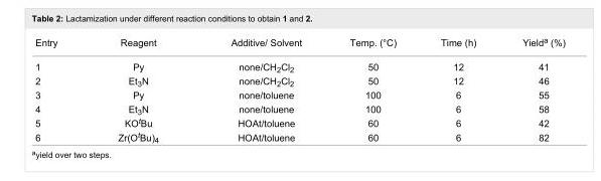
<table><tbody><tr><td>Entry</td><td>Reagent</td><td>Additive/ Solvent</td><td>Temp. (°C)</td><td>Time (h)</td><td>Yield<sup>a</sup> (%)</td></tr><tr><td>1</td><td>Py</td><td>none/CH<sub>2</sub>Cl<sub>2</sub></td><td>50</td><td>12</td><td>41</td></tr><tr><td>2</td><td>Et<sub>3</sub>N</td><td>none/CH<sub>2</sub>Cl<sub>2</sub></td><td>50</td><td>12</td><td>46</td></tr><tr><td>3</td><td>Py</td><td>none/toluene</td><td>100</td><td>6</td><td>55</td></tr><tr><td>4</td><td>Et<sub>3</sub>N</td><td>none/toluene</td><td>100</td><td>6</td><td>58</td></tr><tr><td>5</td><td>KO<sup>t</sup>Bu</td><td>HOAt/toluene</td><td>60</td><td>6</td><td>42</td></tr><tr><td>6</td><td>Zr(O<sup>t</sup>Bu)<sub>4</sub></td><td>HOAt/toluene</td><td>60</td><td>6</td><td>82</td></tr></tbody></table>